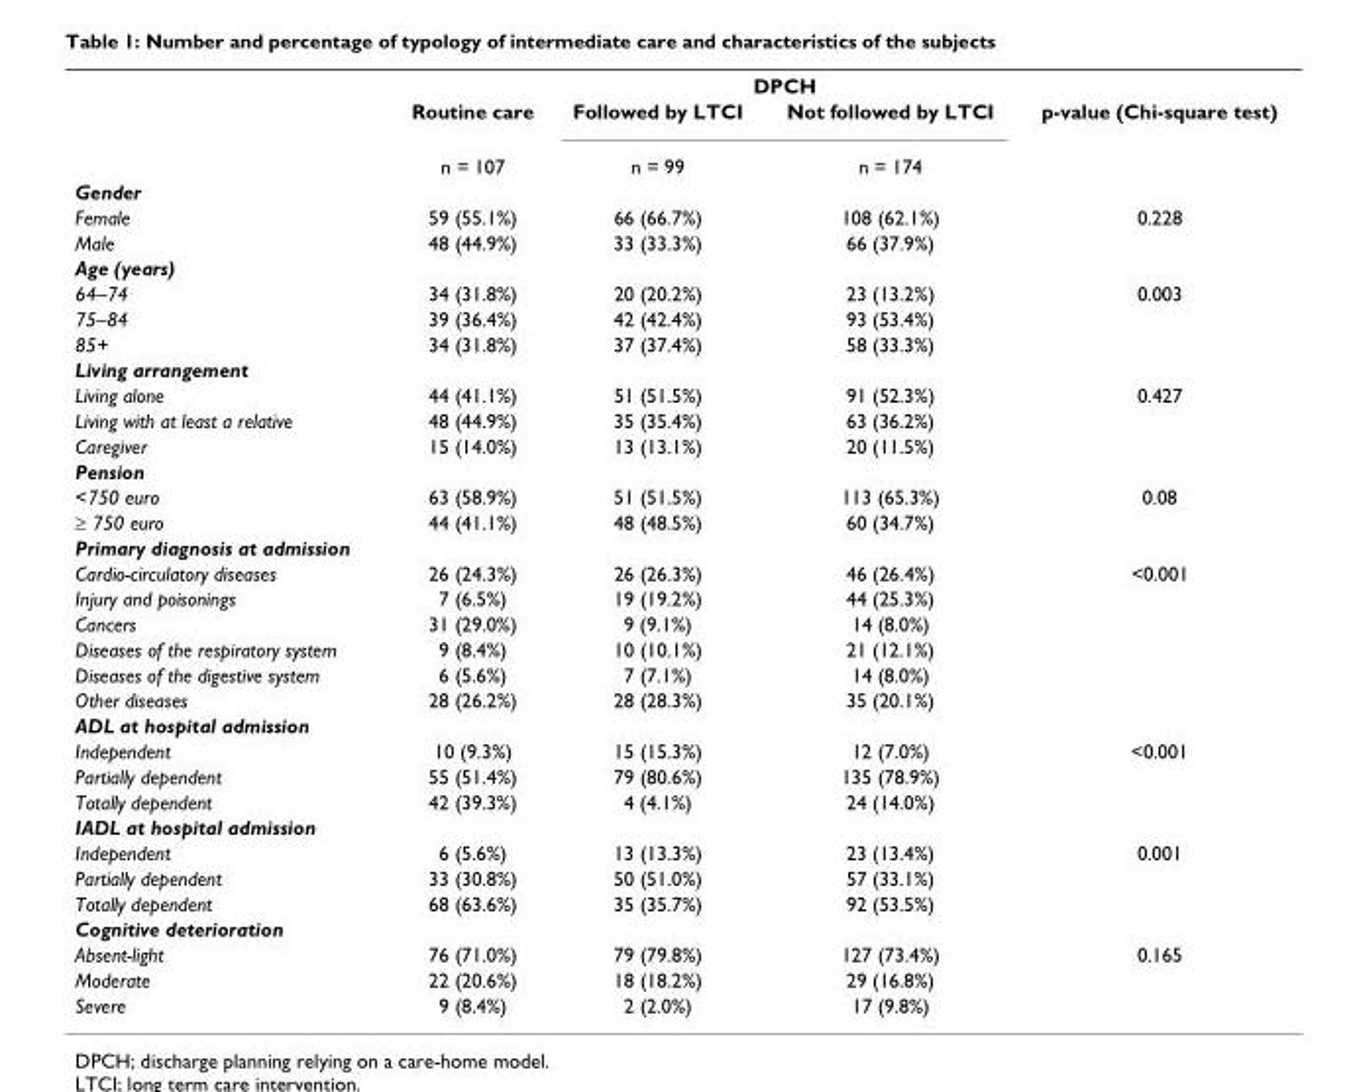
<table><thead><tr><td rowspan="2"></td><td rowspan="2">Routine care</td><td colspan="2">DPCH</td><td rowspan="2">p-value (Chi-square test)</td></tr><tr><td>Followed by LTCI</td><td>Not followed by LTCI</td></tr></thead><tbody><tr><td></td><td>n = 107</td><td>n = 99</td><td>n = 174</td><td></td></tr><tr><td colspan="5">Gender</td></tr><tr><td>Female</td><td>59 (55.1%)</td><td>66 (66.7%)</td><td>108 (62.1%)</td><td>0.228</td></tr><tr><td>Male</td><td>48 (44.9%)</td><td>33 (33.3%)</td><td>66 (37.9%)</td><td></td></tr><tr><td colspan="5">Age (years)</td></tr><tr><td>64–74</td><td>34 (31.8%)</td><td>20 (20.2%)</td><td>23 (13.2%)</td><td>0.003</td></tr><tr><td>75–84</td><td>39 (36.4%)</td><td>42 (42.4%)</td><td>93 (53.4%)</td><td></td></tr><tr><td>85+</td><td>34 (31.8%)</td><td>37 (37.4%)</td><td>58 (33.3%)</td><td></td></tr><tr><td colspan="5">Living arrangement</td></tr><tr><td>Living alone</td><td>44 (41.1%)</td><td>51 (51.5%)</td><td>91 (52.3%)</td><td>0.427</td></tr><tr><td>Living with at least a relative</td><td>48 (44.9%)</td><td>35 (35.4%)</td><td>63 (36.2%)</td><td></td></tr><tr><td>Caregiver</td><td>15 (14.0%)</td><td>13 (13.1%)</td><td>20 (11.5%)</td><td></td></tr><tr><td colspan="5">Pension</td></tr><tr><td>&lt;750 euro</td><td>63 (58.9%)</td><td>51 (51.5%)</td><td>113 (65.3%)</td><td>0.08</td></tr><tr><td>≥ 750 euro</td><td>44 (41.1%)</td><td>48 (48.5%)</td><td>60 (34.7%)</td><td></td></tr><tr><td colspan="5">Primary diagnosis at admission</td></tr><tr><td>Cardio-circulatory diseases</td><td>26 (24.3%)</td><td>26 (26.3%)</td><td>46 (26.4%)</td><td>&lt;0.001</td></tr><tr><td>Injury and poisonings</td><td>7 (6.5%)</td><td>19 (19.2%)</td><td>44 (25.3%)</td><td></td></tr><tr><td>Cancers</td><td>31 (29.0%)</td><td>9 (9.1%)</td><td>14 (8.0%)</td><td></td></tr><tr><td>Diseases of the respiratory system</td><td>9 (8.4%)</td><td>10 (10.1%)</td><td>21 (12.1%)</td><td></td></tr><tr><td>Diseases of the digestive system</td><td>6 (5.6%)</td><td>7 (7.1%)</td><td>14 (8.0%)</td><td></td></tr><tr><td>Other diseases</td><td>28 (26.2%)</td><td>28 (28.3%)</td><td>35 (20.1%)</td><td></td></tr><tr><td colspan="5">ADL at hospital admission</td></tr><tr><td>Independent</td><td>10 (9.3%)</td><td>15 (15.3%)</td><td>12 (7.0%)</td><td>&lt;0.001</td></tr><tr><td>Partially dependent</td><td>55 (51.4%)</td><td>79 (80.6%)</td><td>135 (78.9%)</td><td></td></tr><tr><td>Totally dependent</td><td>42 (39.3%)</td><td>4 (4.1%)</td><td>24 (14.0%)</td><td></td></tr><tr><td colspan="5">IADL at hospital admission</td></tr><tr><td>Independent</td><td>6 (5.6%)</td><td>13 (13.3%)</td><td>23 (13.4%)</td><td>0.001</td></tr><tr><td>Partially dependent</td><td>33 (30.8%)</td><td>50 (51.0%)</td><td>57 (33.1%)</td><td></td></tr><tr><td>Totally dependent</td><td>68 (63.6%)</td><td>35 (35.7%)</td><td>92 (53.5%)</td><td></td></tr><tr><td colspan="5">Cognitive deterioration</td></tr><tr><td>Absent-light</td><td>76 (71.0%)</td><td>79 (79.8%)</td><td>127 (73.4%)</td><td>0.165</td></tr><tr><td>Moderate</td><td>22 (20.6%)</td><td>18 (18.2%)</td><td>29 (16.8%)</td><td></td></tr><tr><td>Severe</td><td>9 (8.4%)</td><td>2 (2.0%)</td><td>17 (9.8%)</td><td></td></tr></tbody></table>